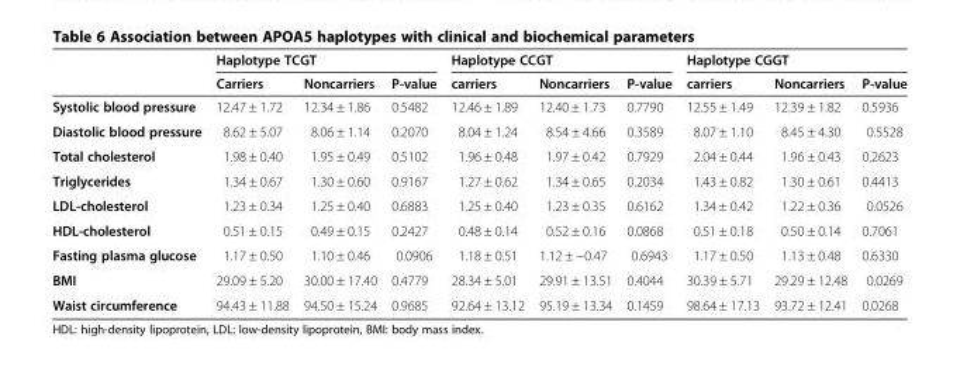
<table><thead><tr><td rowspan="2"></td><td colspan="3">Haplotype TCGT</td><td colspan="3">Haplotype CCGT</td><td colspan="3">Haplotype CGGT</td></tr><tr><td>Carriers</td><td>Noncarriers</td><td>P-value</td><td>carriers</td><td>Noncarriers</td><td>P-value</td><td>carriers</td><td>Noncarriers</td><td>P-value</td></tr></thead><tbody><tr><td>Systolic blood pressure</td><td>12.47 ± 1.72</td><td>12.34 ± 1.86</td><td>0.5482</td><td>12.46 ± 1.89</td><td>12.40 ± 1.73</td><td>0.7790</td><td>12.55 ± 1.49</td><td>12.39 ± 1.82</td><td>0.5936</td></tr><tr><td>Diastolic blood pressure</td><td>8.62 ± 5.07</td><td>8.06 ± 1.14</td><td>0.2070</td><td>8.04 ± 1.24</td><td>8.54 ± 4.66</td><td>0.3589</td><td>8.07 ± 1.10</td><td>8.45 ± 4.30</td><td>0.5528</td></tr><tr><td>Total cholesterol</td><td>1.98 ± 0.40</td><td>1.95 ± 0.49</td><td>0.5102</td><td>1.96 ± 0.48</td><td>1.97 ± 0.42</td><td>0.7929</td><td>2.04 ± 0.44</td><td>1.96 ± 0.43</td><td>0.2623</td></tr><tr><td>Triglycerides</td><td>1.34 ± 0.67</td><td>1.30 ± 0.60</td><td>0.9167</td><td>1.27 ± 0.62</td><td>1.34 ± 0.65</td><td>0.2034</td><td>1.43 ± 0.82</td><td>1.30 ± 0.61</td><td>0.4413</td></tr><tr><td>LDL-cholesterol</td><td>1.23 ± 0.34</td><td>1.25 ± 0.40</td><td>0.6883</td><td>1.25 ± 0.40</td><td>1.23 ± 0.35</td><td>0.6162</td><td>1.34 ± 0.42</td><td>1.22 ± 0.36</td><td>0.0526</td></tr><tr><td>HDL-cholesterol</td><td>0.51 ± 0.15</td><td>0.49 ± 0.15</td><td>0.2427</td><td>0.48 ± 0.14</td><td>0.52 ± 0.16</td><td>0.0868</td><td>0.51 ± 0.18</td><td>0.50 ± 0.14</td><td>0.7061</td></tr><tr><td>Fasting plasma glucose</td><td>1.17 ± 0.50</td><td>1.10 ± 0.46</td><td>0.0906</td><td>1.18 ± 0.51</td><td>1.12 ± −0.47</td><td>0.6943</td><td>1.17 ± 0.50</td><td>1.13 ± 0.48</td><td>0.6330</td></tr><tr><td>BMI</td><td>29.09 ± 5.20</td><td>30.00 ± 17.40</td><td>0.4779</td><td>28.34 ± 5.01</td><td>29.91 ± 13.51</td><td>0.4044</td><td>30.39 ± 5.71</td><td>29.29 ± 12.48</td><td>0.0269</td></tr><tr><td>Waist circumference</td><td>94.43 ± 11.88</td><td>94.50 ± 15.24</td><td>0.9685</td><td>92.64 ± 13.12</td><td>95.19 ± 13.34</td><td>0.1459</td><td>98.64 ± 17.13</td><td>93.72 ± 12.41</td><td>0.0268</td></tr></tbody></table>